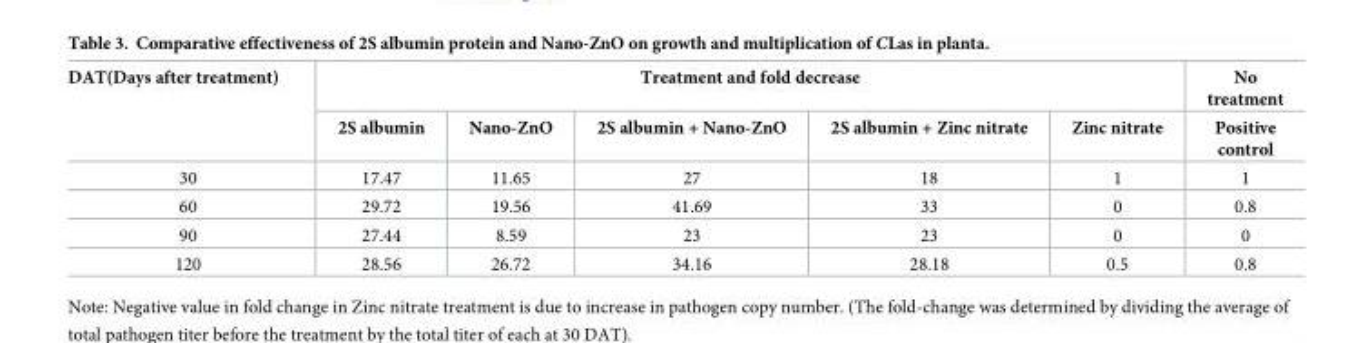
<table><thead><tr><td rowspan="2">DAT(Days after treatment)</td><td colspan="5">Treatment and fold decrease</td><td rowspan="2">No treatment Positive control</td></tr><tr><td>2S albumin</td><td>Nano-ZnO</td><td>2S albumin + Nano-ZnO</td><td>2S albumin + Zinc nitrate</td><td>Zinc nitrate</td></tr></thead><tbody><tr><td>30</td><td>17.47</td><td>11.65</td><td>27</td><td>18</td><td>1</td><td>1</td></tr><tr><td>60</td><td>29.72</td><td>19.56</td><td>41.69</td><td>33</td><td>0</td><td>0.8</td></tr><tr><td>90</td><td>27.44</td><td>8.59</td><td>23</td><td>23</td><td>0</td><td>0</td></tr><tr><td>120</td><td>28.56</td><td>26.72</td><td>34.16</td><td>28.18</td><td>0.5</td><td>0.8</td></tr></tbody></table>